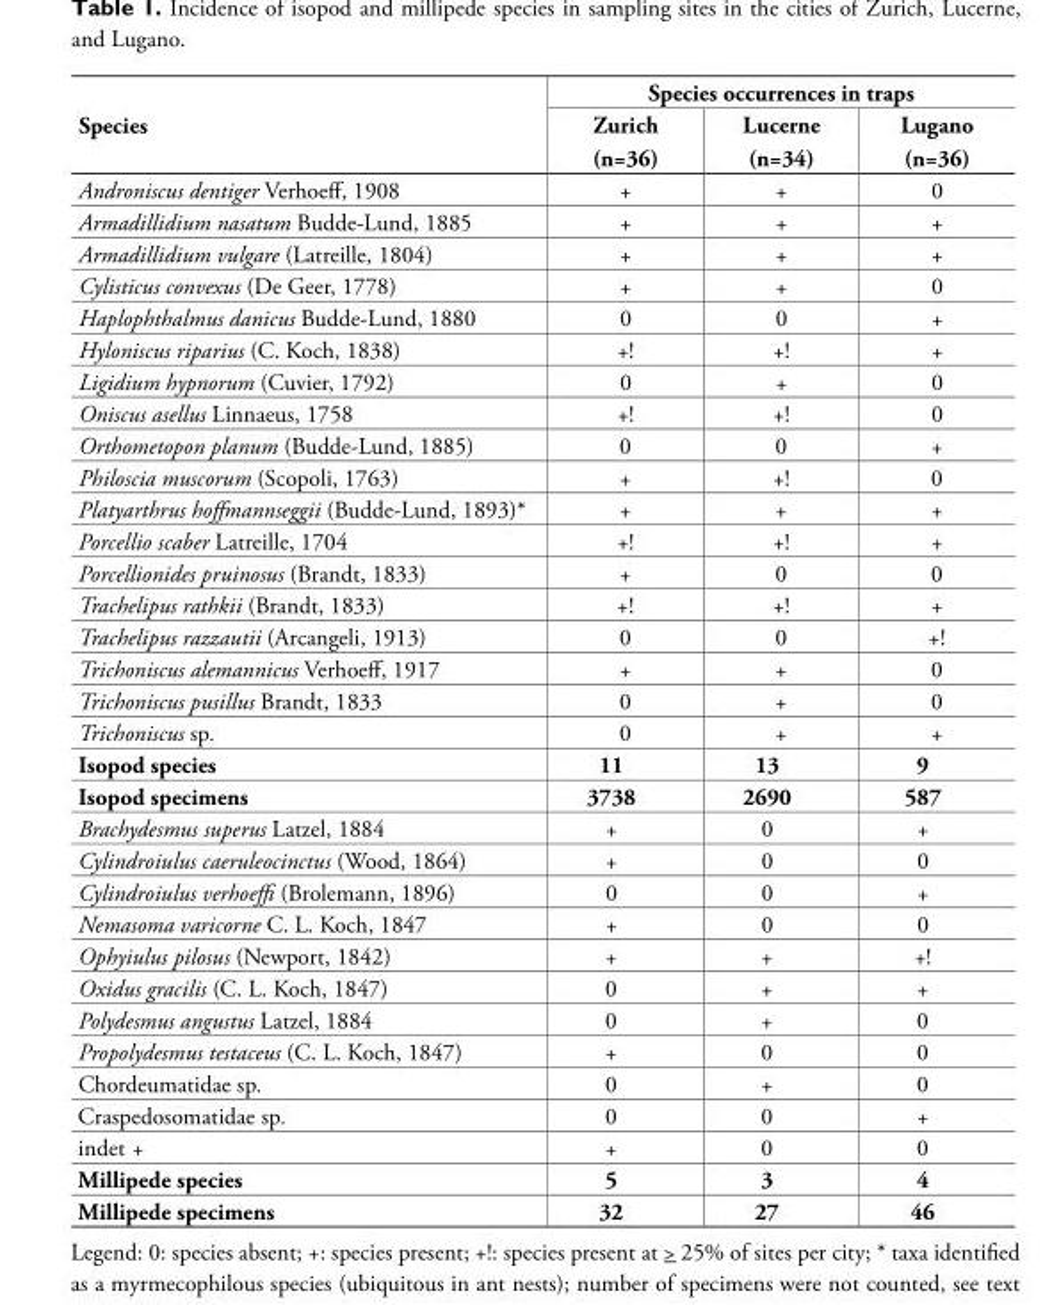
<table><thead><tr><td rowspan="2">Species</td><td colspan="3">Species occurrences in traps</td></tr><tr><td>Zurich (n=36)</td><td>Lucerne (n=34)</td><td>Lugano (n=36)</td></tr></thead><tbody><tr><td>Androniscus dentiger Verhoeff, 1908</td><td>+</td><td>+</td><td>0</td></tr><tr><td>Armadillidium nasatum Budde-Lund, 1885</td><td>+</td><td>+</td><td>+</td></tr><tr><td>Armadillidium vulgare (Latreille, 1804)</td><td>+</td><td>+</td><td>+</td></tr><tr><td>Cylisticus convexus (De Geer, 1778)</td><td>+</td><td>+</td><td>0</td></tr><tr><td>Haplophthalmus danicus Budde-Lund, 1880</td><td>0</td><td>0</td><td>+</td></tr><tr><td>Hyloniscus riparius (C. Koch, 1838)</td><td>+!</td><td>+!</td><td>+</td></tr><tr><td>Ligidium hypnorum (Cuvier, 1792)</td><td>0</td><td>+</td><td>0</td></tr><tr><td>Oniscus asellus Linnaeus, 1758</td><td>+!</td><td>+!</td><td>0</td></tr><tr><td>Orthometopon planum (Budde-Lund, 1885)</td><td>0</td><td>0</td><td>+</td></tr><tr><td>Philoscia muscorum (Scopoli, 1763)</td><td>+</td><td>+!</td><td>0</td></tr><tr><td>Platyarthrus hoffmannseggii (Budde-Lund, 1893)*</td><td>+</td><td>+</td><td>+</td></tr><tr><td>Porcellio scaber Latreille, 1704</td><td>+!</td><td>+!</td><td>+</td></tr><tr><td>Porcellionides pruinosus (Brandt, 1833)</td><td>+</td><td>0</td><td>0</td></tr><tr><td>Trachelipus rathkii (Brandt, 1833)</td><td>+!</td><td>+!</td><td>+</td></tr><tr><td>Trachelipus razzautii (Arcangeli, 1913)</td><td>0</td><td>0</td><td>+!</td></tr><tr><td>Trichoniscus alemannicus Verhoeff, 1917</td><td>+</td><td>+</td><td>0</td></tr><tr><td>Trichoniscus pusillus Brandt, 1833</td><td>0</td><td>+</td><td>0</td></tr><tr><td>Trichoniscus sp.</td><td>0</td><td>+</td><td>+</td></tr><tr><td>Isopod species</td><td>11</td><td>13</td><td>9</td></tr><tr><td>Isopod specimens</td><td>3738</td><td>2690</td><td>587</td></tr><tr><td>Brachydesmus superus Latzel, 1884</td><td>+</td><td>0</td><td>+</td></tr><tr><td>Cylindroiulus caeruleocinctus (Wood, 1864)</td><td>+</td><td>0</td><td>0</td></tr><tr><td>Cylindroiulus verhoeffi (Brolemann, 1896)</td><td>0</td><td>0</td><td>+</td></tr><tr><td>Nemasoma varicorne C. L. Koch, 1847</td><td>+</td><td>0</td><td>0</td></tr><tr><td>Ophyiulus pilosus (Newport, 1842)</td><td>+</td><td>+</td><td>+!</td></tr><tr><td>Oxidus gracilis (C. L. Koch, 1847)</td><td>0</td><td>+</td><td>+</td></tr><tr><td>Polydesmus angustus Latzel, 1884</td><td>0</td><td>+</td><td>0</td></tr><tr><td>Propolydesmus testaceus (C. L. Koch, 1847)</td><td>+</td><td>0</td><td>0</td></tr><tr><td>Chordeumatidae sp.</td><td>0</td><td>+</td><td>0</td></tr><tr><td>Craspedosomatidae sp.</td><td>0</td><td>0</td><td>+</td></tr><tr><td>indet +</td><td>+</td><td>0</td><td>0</td></tr><tr><td>Millipede species</td><td>5</td><td>3</td><td>4</td></tr><tr><td>Millipede specimens</td><td>32</td><td>27</td><td>46</td></tr></tbody></table>